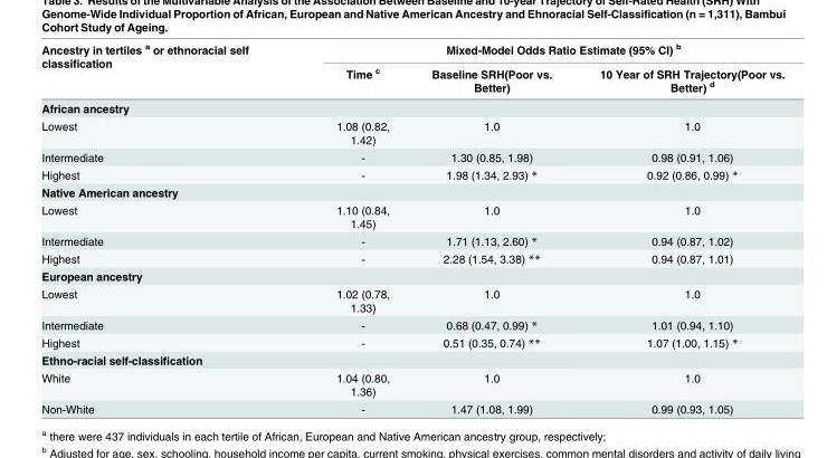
<table><thead><tr><td rowspan="2">Ancestry in tertiles <sup>a</sup> or ethnoracial self classification</td><td colspan="3">Mixed-Model Odds Ratio Estimate (95% CI) <sup>b</sup></td></tr><tr><td>Time <sup>c</sup></td><td>Baseline SRH(Poor vs. Better)</td><td>10 Year of SRH Trajectory(Poor vs. Better) <sup>d</sup></td></tr></thead><tbody><tr><td colspan="4">African ancestry</td></tr><tr><td>Lowest</td><td>1.08 (0.82, 1.42)</td><td>1.0</td><td>1.0</td></tr><tr><td>Intermediate</td><td>-</td><td>1.30 (0.85, 1.98)</td><td>0.98 (0.91, 1.06)</td></tr><tr><td>Highest</td><td>-</td><td>1.98 (1.34, 2.93) *</td><td>0.92 (0.86, 0.99) *</td></tr><tr><td colspan="4">Native American ancestry</td></tr><tr><td>Lowest</td><td>1.10 (0.84, 1.45)</td><td>1.0</td><td>1.0</td></tr><tr><td>Intermediate</td><td>-</td><td>1.71 (1.13, 2.60) *</td><td>0.94 (0.87, 1.02)</td></tr><tr><td>Highest</td><td>-</td><td>2.28 (1.54, 3.38) **</td><td>0.94 (0.87, 1.01)</td></tr><tr><td colspan="4">European ancestry</td></tr><tr><td>Lowest</td><td>1.02 (0.78, 1.33)</td><td>1.0</td><td>1.0</td></tr><tr><td>Intermediate</td><td>-</td><td>0.68 (0.47, 0.99) *</td><td>1.01 (0.94, 1.10)</td></tr><tr><td>Highest</td><td>-</td><td>0.51 (0.35, 0.74) **</td><td>1.07 (1.00, 1.15) *</td></tr><tr><td colspan="4">Ethno-racial self-classification</td></tr><tr><td>White</td><td>1.04 (0.80, 1.36)</td><td>1.0</td><td>1.0</td></tr><tr><td>Non-White</td><td>-</td><td>1.47 (1.08, 1.99)</td><td>0.99 (0.93, 1.05)</td></tr></tbody></table>